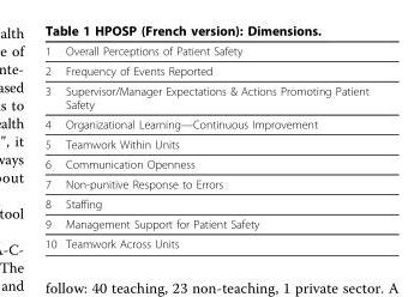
<table><tbody><tr><td>1</td><td>Overall Perceptions of Patient Safety</td></tr><tr><td>2</td><td>Frequency of Events Reported</td></tr><tr><td>3</td><td>Supervisor/Manager Expectations &amp; Actions Promoting Patient Safety</td></tr><tr><td>4</td><td>Organizational Learning—Continuous Improvement</td></tr><tr><td>5</td><td>Teamwork Within Units</td></tr><tr><td>6</td><td>Communication Openness</td></tr><tr><td>7</td><td>Non-punitive Response to Errors</td></tr><tr><td>8</td><td>Staffing</td></tr><tr><td>9</td><td>Management Support for Patient Safety</td></tr><tr><td>10</td><td>Teamwork Across Units</td></tr></tbody></table>